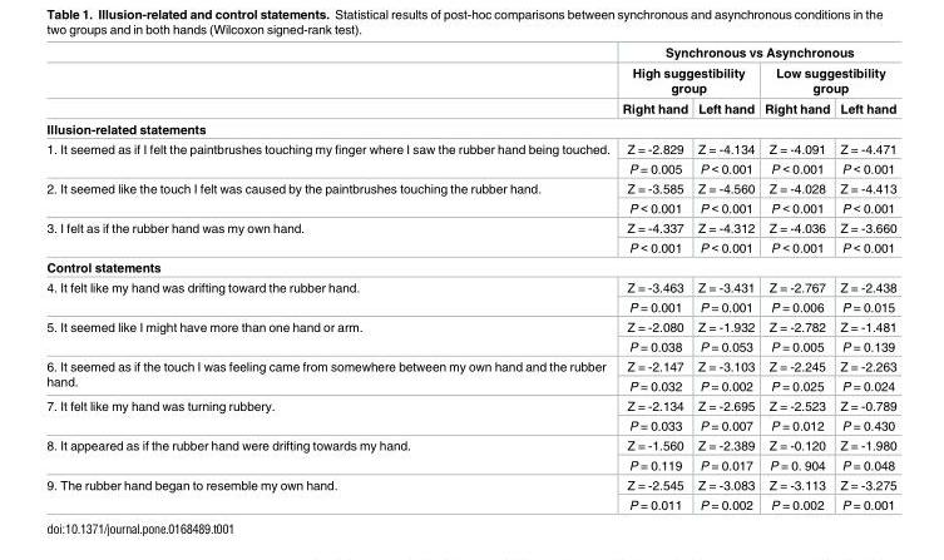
<table><thead><tr><td rowspan="3"></td><td colspan="4">Synchronous vs Asynchronous</td></tr><tr><td colspan="2">High suggestibility group</td><td colspan="2">Low suggestibility group</td></tr><tr><td>Right hand</td><td>Left hand</td><td>Right hand</td><td>Left hand</td></tr></thead><tbody><tr><td colspan="5">Illusion-related statements</td></tr><tr><td rowspan="2">1. It seemed as if I felt the paintbrushes touching my finger where I saw the rubber hand being touched.</td><td>Z = -2.829</td><td>Z = -4.134</td><td>Z = -4.091</td><td>Z = -4.471</td></tr><tr><td>P = 0.005</td><td>P &lt; 0.001</td><td>P &lt; 0.001</td><td>P &lt; 0.001</td></tr><tr><td rowspan="2">2. It seemed like the touch I felt was caused by the paintbrushes touching the rubber hand.</td><td>Z = -3.585</td><td>Z = -4.560</td><td>Z = -4.028</td><td>Z = -4.413</td></tr><tr><td>P &lt; 0.001</td><td>P &lt; 0.001</td><td>P &lt; 0.001</td><td>P &lt; 0.001</td></tr><tr><td rowspan="2">3. I felt as if the rubber hand was my own hand.</td><td>Z = -4.337</td><td>Z = -4.312</td><td>Z = -4.036</td><td>Z = -3.660</td></tr><tr><td>P &lt; 0.001</td><td>P &lt; 0.001</td><td>P &lt; 0.001</td><td>P &lt; 0.001</td></tr><tr><td colspan="5">Control statements</td></tr><tr><td rowspan="2">4. It felt like my hand was drifting toward the rubber hand.</td><td>Z = -3.463</td><td>Z = -3.431</td><td>Z = -2.767</td><td>Z = -2.438</td></tr><tr><td>P = 0.001</td><td>P = 0.001</td><td>P = 0.006</td><td>P = 0.015</td></tr><tr><td rowspan="2">5. It seemed like I might have more than one hand or arm.</td><td>Z = -2.080</td><td>Z = -1.932</td><td>Z = -2.782</td><td>Z = -1.481</td></tr><tr><td>P = 0.038</td><td>P = 0.053</td><td>P = 0.005</td><td>P = 0.139</td></tr><tr><td rowspan="2">6. It seemed as if the touch I was feeling came from somewhere between my own hand and the rubber hand.</td><td>Z = -2.147</td><td>Z = -3.103</td><td>Z = -2.245</td><td>Z = -2.263</td></tr><tr><td>P = 0.032</td><td>P = 0.002</td><td>P = 0.025</td><td>P = 0.024</td></tr><tr><td rowspan="2">7. It felt like my hand was turning rubbery.</td><td>Z = -2.134</td><td>Z = -2.695</td><td>Z = -2.523</td><td>Z = -0.789</td></tr><tr><td>P = 0.033</td><td>P = 0.007</td><td>P = 0.012</td><td>P = 0.430</td></tr><tr><td rowspan="2">8. It appeared as if the rubber hand were drifting towards my hand.</td><td>Z = -1.560</td><td>Z = -2.389</td><td>Z = -0.120</td><td>Z = -1.980</td></tr><tr><td>P = 0.119</td><td>P = 0.017</td><td>P = 0. 904</td><td>P = 0.048</td></tr><tr><td rowspan="2">9. The rubber hand began to resemble my own hand.</td><td>Z = -2.545</td><td>Z = -3.083</td><td>Z = -3.113</td><td>Z = -3.275</td></tr><tr><td>P = 0.011</td><td>P = 0.002</td><td>P = 0.002</td><td>P = 0.001</td></tr></tbody></table>